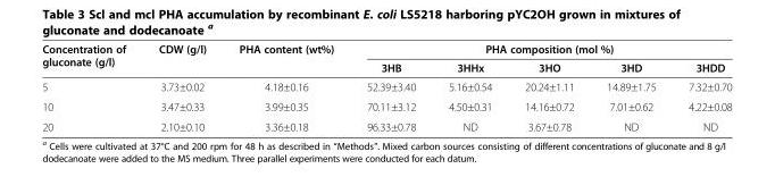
<table><thead><tr><td rowspan="2">Concentration of gluconate (g/l)</td><td rowspan="2">CDW (g/l)</td><td rowspan="2">PHA content (wt%)</td><td colspan="5">PHA composition (mol %)</td></tr><tr><td>3HB</td><td>3HHx</td><td>3HO</td><td>3HD</td><td>3HDD</td></tr></thead><tbody><tr><td>5</td><td>3.73±0.02</td><td>4.18±0.16</td><td>52.39±3.40</td><td>5.16±0.54</td><td>20.24±1.11</td><td>14.89±1.75</td><td>7.32±0.70</td></tr><tr><td>10</td><td>3.47±0.33</td><td>3.99±0.35</td><td>70.11±3.12</td><td>4.50±0.31</td><td>14.16±0.72</td><td>7.01±0.62</td><td>4.22±0.08</td></tr><tr><td>20</td><td>2.10±0.10</td><td>3.36±0.18</td><td>96.33±0.78</td><td>ND</td><td>3.67±0.78</td><td>ND</td><td>ND</td></tr></tbody></table>